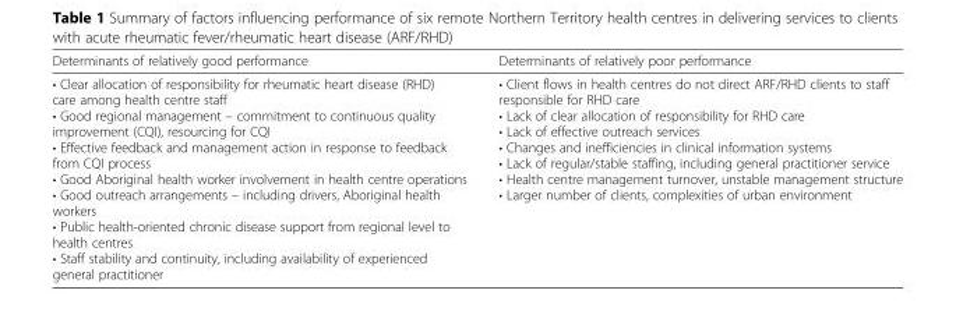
<table><thead><tr><td>Determinants of relatively good performance</td><td>Determinants of relatively poor performance</td></tr></thead><tbody><tr><td>• Clear allocation of responsibility for rheumatic heart disease (RHD) care among health centre staff • Good regional management – commitment to continuous quality improvement (CQI), resourcing for CQI • Effective feedback and management action in response to feedback from CQI process • Good Aboriginal health worker involvement in health centre operations • Good outreach arrangements – including drivers, Aboriginal health workers • Public health-oriented chronic disease support from regional level to health centres • Staff stability and continuity, including availability of experienced general practitioner</td><td>• Client flows in health centres do not direct ARF/RHD clients to staff responsible for RHD care • Lack of clear allocation of responsibility for RHD care • Lack of effective outreach services • Changes and inefficiencies in clinical information systems • Lack of regular/stable staffing, including general practitioner service • Health centre management turnover, unstable management structure • Larger number of clients, complexities of urban environment</td></tr></tbody></table>